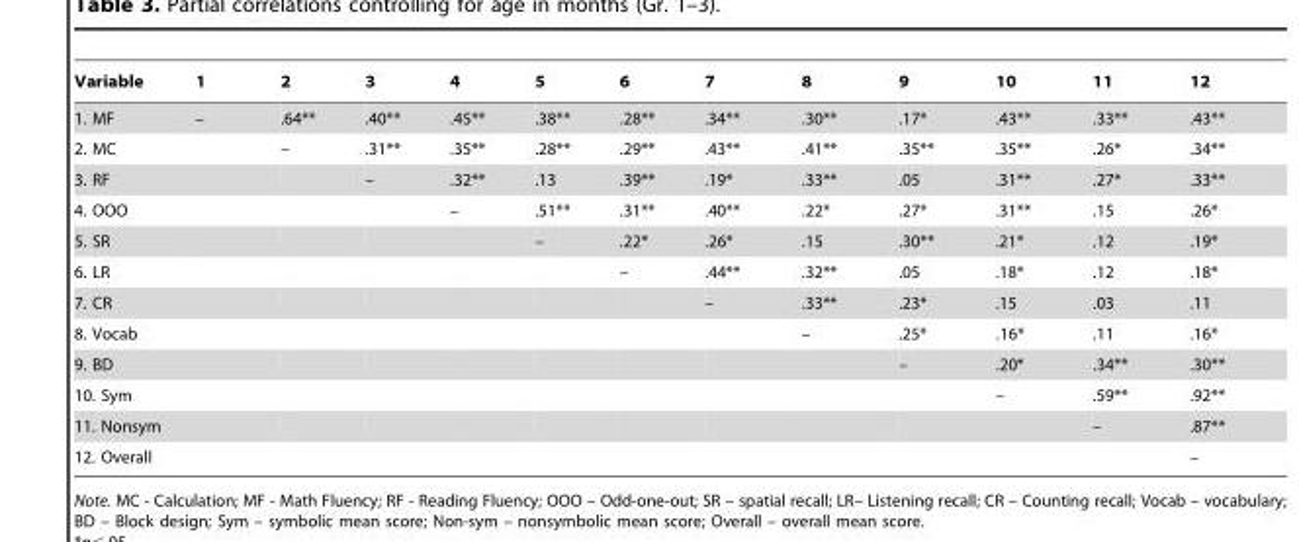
<table><thead><tr><td>Variable</td><td>1</td><td>2</td><td>3</td><td>4</td><td>5</td><td>6</td><td>7</td><td>8</td><td>9</td><td>10</td><td>11</td><td>12</td></tr></thead><tbody><tr><td>1. MF</td><td>–</td><td>.64**</td><td>.40**</td><td>.45**</td><td>.38**</td><td>.28**</td><td>.34**</td><td>.30**</td><td>.17*</td><td>.43**</td><td>.33**</td><td>.43**</td></tr><tr><td>2. MC</td><td></td><td>–</td><td>.31**</td><td>.35**</td><td>.28**</td><td>.29**</td><td>.43**</td><td>.41**</td><td>.35**</td><td>.35**</td><td>.26*</td><td>.34**</td></tr><tr><td>3. RF</td><td></td><td></td><td>–</td><td>.32**</td><td>.13</td><td>.39**</td><td>.19*</td><td>.33**</td><td>.05</td><td>.31**</td><td>.27*</td><td>.33**</td></tr><tr><td>4. OOO</td><td></td><td></td><td></td><td>–</td><td>.51**</td><td>.31**</td><td>.40**</td><td>.22*</td><td>.27*</td><td>.31**</td><td>.15</td><td>.26*</td></tr><tr><td>5. SR</td><td></td><td></td><td></td><td></td><td>–</td><td>.22*</td><td>.26*</td><td>.15</td><td>.30**</td><td>.21*</td><td>.12</td><td>.19*</td></tr><tr><td>6. LR</td><td></td><td></td><td></td><td></td><td></td><td>–</td><td>.44**</td><td>.32**</td><td>.05</td><td>.18*</td><td>.12</td><td>.18*</td></tr><tr><td>7. CR</td><td></td><td></td><td></td><td></td><td></td><td></td><td>–</td><td>.33**</td><td>.23*</td><td>.15</td><td>.03</td><td>.11</td></tr><tr><td>8. Vocab</td><td></td><td></td><td></td><td></td><td></td><td></td><td></td><td>–</td><td>.25*</td><td>.16*</td><td>.11</td><td>.16*</td></tr><tr><td>9. BD</td><td></td><td></td><td></td><td></td><td></td><td></td><td></td><td></td><td>–</td><td>.20*</td><td>.34**</td><td>.30**</td></tr><tr><td>10. Sym</td><td></td><td></td><td></td><td></td><td></td><td></td><td></td><td></td><td></td><td>–</td><td>.59**</td><td>.92**</td></tr><tr><td>11. Nonsym</td><td></td><td></td><td></td><td></td><td></td><td></td><td></td><td></td><td></td><td></td><td>–</td><td>.87**</td></tr><tr><td>12. Overall</td><td></td><td></td><td></td><td></td><td></td><td></td><td></td><td></td><td></td><td></td><td></td><td>–</td></tr></tbody></table>